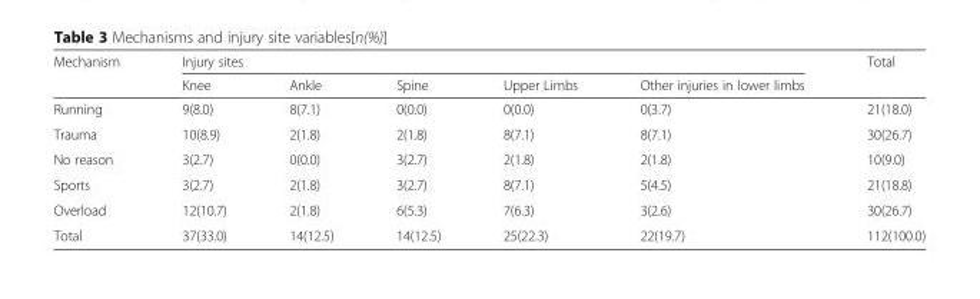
<table><thead><tr><td rowspan="2">Mechanism</td><td colspan="5">Injury sites</td><td rowspan="2">Total</td></tr><tr><td>Knee</td><td>Ankle</td><td>Spine</td><td>Upper Limbs</td><td>Other injuries in lower limbs</td></tr></thead><tbody><tr><td>Running</td><td>9(8.0)</td><td>8(7.1)</td><td>0(0.0)</td><td>0(0.0)</td><td>0(3.7)</td><td>21(18.0)</td></tr><tr><td>Trauma</td><td>10(8.9)</td><td>2(1.8)</td><td>2(1.8)</td><td>8(7.1)</td><td>8(7.1)</td><td>30(26.7)</td></tr><tr><td>No reason</td><td>3(2.7)</td><td>0(0.0)</td><td>3(2.7)</td><td>2(1.8)</td><td>2(1.8)</td><td>10(9.0)</td></tr><tr><td>Sports</td><td>3(2.7)</td><td>2(1.8)</td><td>3(2.7)</td><td>8(7.1)</td><td>5(4.5)</td><td>21(18.8)</td></tr><tr><td>Overload</td><td>12(10.7)</td><td>2(1.8)</td><td>6(5.3)</td><td>7(6.3)</td><td>3(2.6)</td><td>30(26.7)</td></tr><tr><td>Total</td><td>37(33.0)</td><td>14(12.5)</td><td>14(12.5)</td><td>25(22.3)</td><td>22(19.7)</td><td>112(100.0)</td></tr></tbody></table>